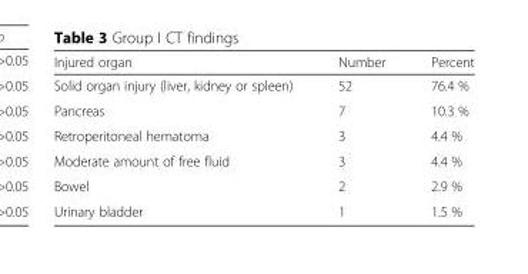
<table><thead><tr><td>Injured organ</td><td>Number</td><td>Percent</td></tr></thead><tbody><tr><td>Solid organ injury (liver, kidney or spleen)</td><td>52</td><td>76.4 %</td></tr><tr><td>Pancreas</td><td>7</td><td>10.3 %</td></tr><tr><td>Retroperitoneal hematoma</td><td>3</td><td>4.4 %</td></tr><tr><td>Moderate amount of free fluid</td><td>3</td><td>4.4 %</td></tr><tr><td>Bowel</td><td>2</td><td>2.9 %</td></tr><tr><td>Urinary bladder</td><td>1</td><td>1.5 %</td></tr></tbody></table>